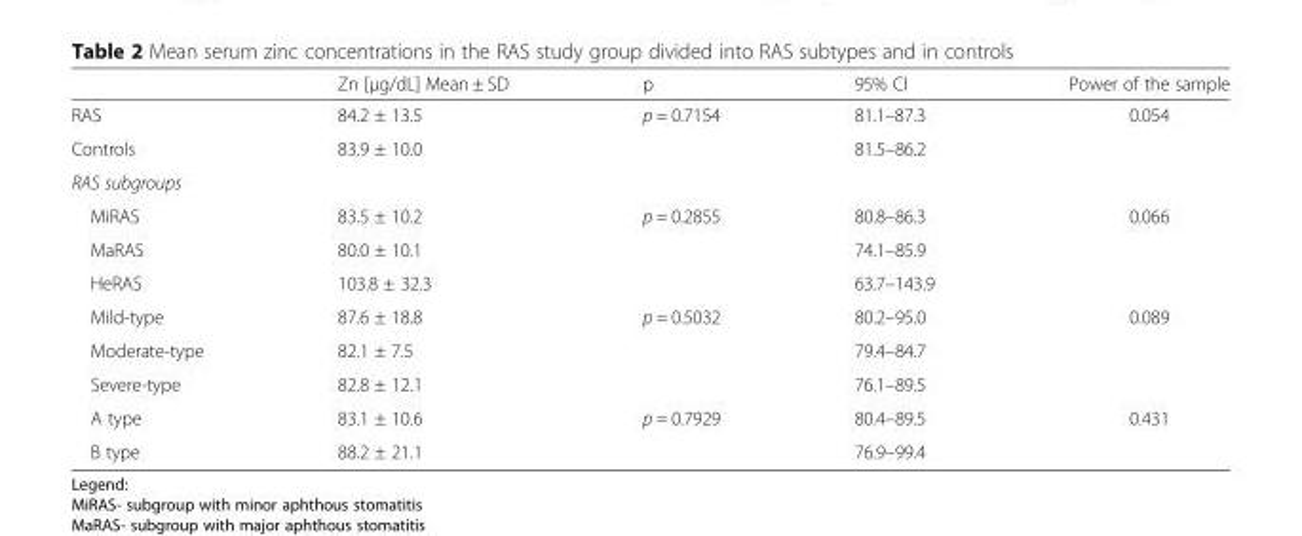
<table><thead><tr><td></td><td>Zn [μg/dL] Mean ± SD</td><td>p</td><td>95% CI</td><td>Power of the sample</td></tr></thead><tbody><tr><td>RAS</td><td>84.2 ± 13.5</td><td rowspan="2">p = 0.7154</td><td>81.1–87.3</td><td rowspan="2">0.054</td></tr><tr><td>Controls</td><td>83.9 ± 10.0</td><td>81.5–86.2</td></tr><tr><td colspan="5">RAS subgroups</td></tr><tr><td>MiRAS</td><td>83.5 ± 10.2</td><td rowspan="3">p = 0.2855</td><td>80.8–86.3</td><td rowspan="3">0.066</td></tr><tr><td>MaRAS</td><td>80.0 ± 10.1</td><td>74.1–85.9</td></tr><tr><td>HeRAS</td><td>103.8 ± 32.3</td><td>63.7–143.9</td></tr><tr><td>Mild-type</td><td>87.6 ± 18.8</td><td rowspan="3">p = 0.5032</td><td>80.2–95.0</td><td rowspan="3">0.089</td></tr><tr><td>Moderate-type</td><td>82.1 ± 7.5</td><td>79.4–84.7</td></tr><tr><td>Severe-type</td><td>82.8 ± 12.1</td><td>76.1–89.5</td></tr><tr><td>A type</td><td>83.1 ± 10.6</td><td rowspan="2">p = 0.7929</td><td>80.4–89.5</td><td rowspan="2">0.431</td></tr><tr><td>B type</td><td>88.2 ± 21.1</td><td>76.9–99.4</td></tr></tbody></table>